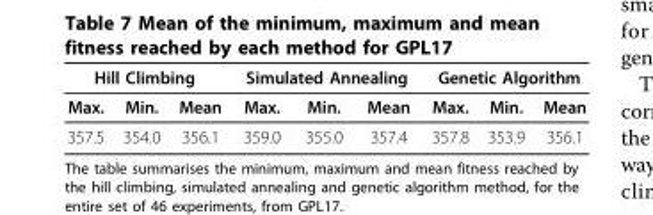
<table><thead><tr><td colspan="3">Hill Climbing</td><td colspan="3">Simulated Annealing</td><td colspan="3">Genetic Algorithm</td></tr><tr><td>Max.</td><td>Min.</td><td>Mean</td><td>Max.</td><td>Min.</td><td>Mean</td><td>Max.</td><td>Min.</td><td>Mean</td></tr></thead><tbody><tr><td>357.5</td><td>354.0</td><td>356.1</td><td>359.0</td><td>355.0</td><td>357.4</td><td>357.8</td><td>353.9</td><td>356.1</td></tr></tbody></table>